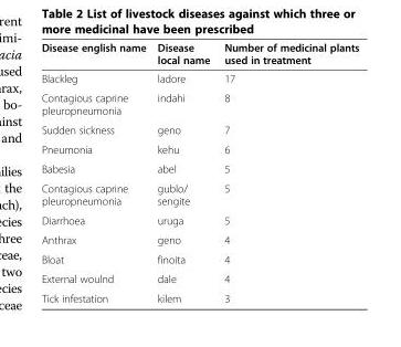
<table><thead><tr><td>Disease english name</td><td>Disease local name</td><td>Number of medicinal plants used in treatment</td></tr></thead><tbody><tr><td>Blackleg</td><td>ladore</td><td>17</td></tr><tr><td>Contagious caprine pleuropneumonia</td><td>indahi</td><td>8</td></tr><tr><td>Sudden sickness</td><td>geno</td><td>7</td></tr><tr><td>Pneumonia</td><td>kehu</td><td>6</td></tr><tr><td>Babesia</td><td>abel</td><td>5</td></tr><tr><td>Contagious caprine pleuropneumonia</td><td>gublo/ sengite</td><td>5</td></tr><tr><td>Diarrhoea</td><td>uruga</td><td>5</td></tr><tr><td>Anthrax</td><td>geno</td><td>4</td></tr><tr><td>Bloat</td><td>finoita</td><td>4</td></tr><tr><td>External woulnd</td><td>dale</td><td>4</td></tr><tr><td>Tick infestation</td><td>kilem</td><td>3</td></tr></tbody></table>